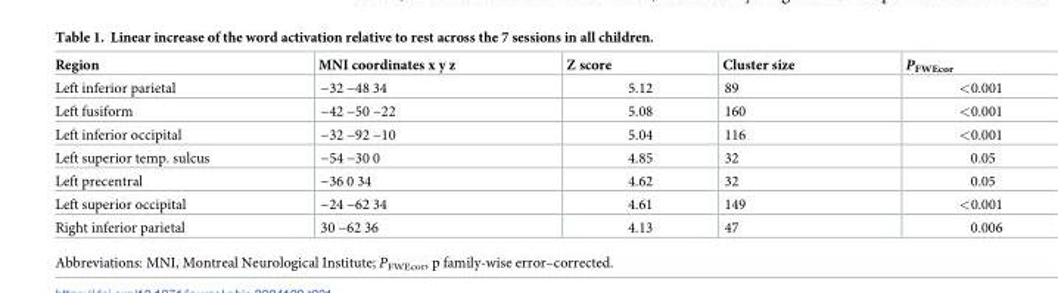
<table><thead><tr><td>Region</td><td>MNI coordinates x y z</td><td>Z score</td><td>Cluster size</td><td>P<sub>FWEcor</sub></td></tr></thead><tbody><tr><td>Left inferior parietal</td><td>−32 −48 34</td><td>5.12</td><td>89</td><td>&lt;0.001</td></tr><tr><td>Left fusiform</td><td>−42 −50 −22</td><td>5.08</td><td>160</td><td>&lt;0.001</td></tr><tr><td>Left inferior occipital</td><td>−32 −92 −10</td><td>5.04</td><td>116</td><td>&lt;0.001</td></tr><tr><td>Left superior temp. sulcus</td><td>−54 −30 0</td><td>4.85</td><td>32</td><td>0.05</td></tr><tr><td>Left precentral</td><td>−36 0 34</td><td>4.62</td><td>32</td><td>0.05</td></tr><tr><td>Left superior occipital</td><td>−24 −62 34</td><td>4.61</td><td>149</td><td>&lt;0.001</td></tr><tr><td>Right inferior parietal</td><td>30 −62 36</td><td>4.13</td><td>47</td><td>0.006</td></tr></tbody></table>